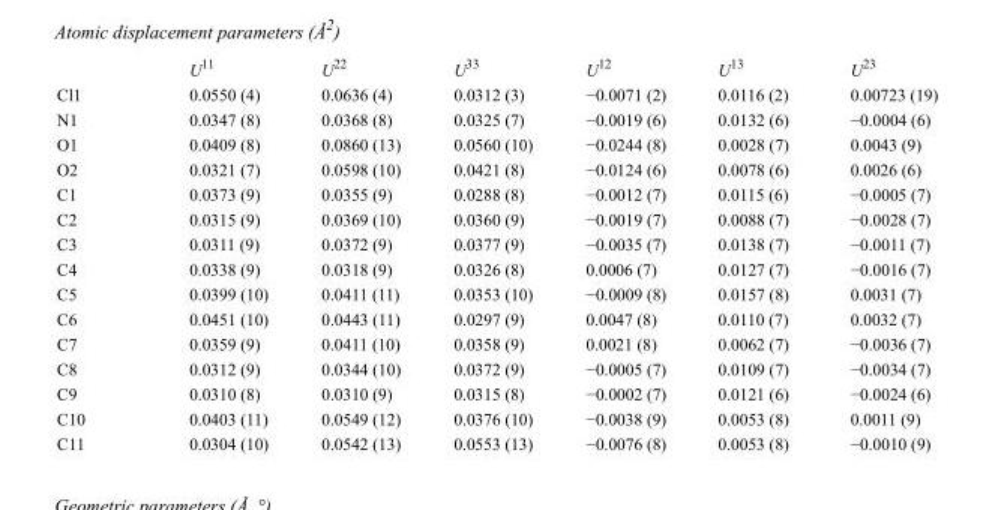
<table><thead><tr><td></td><td>U<sup>11</sup></td><td>U<sup>22</sup></td><td>U<sup>33</sup></td><td>U<sup>12</sup></td><td>U<sup>13</sup></td><td>U<sup>23</sup></td></tr></thead><tbody><tr><td>Cl1</td><td>0.0550 (4)</td><td>0.0636 (4)</td><td>0.0312 (3)</td><td>−0.0071 (2)</td><td>0.0116 (2)</td><td>0.00723 (19)</td></tr><tr><td>N1</td><td>0.0347 (8)</td><td>0.0368 (8)</td><td>0.0325 (7)</td><td>−0.0019 (6)</td><td>0.0132 (6)</td><td>−0.0004 (6)</td></tr><tr><td>O1</td><td>0.0409 (8)</td><td>0.0860 (13)</td><td>0.0560 (10)</td><td>−0.0244 (8)</td><td>0.0028 (7)</td><td>0.0043 (9)</td></tr><tr><td>O2</td><td>0.0321 (7)</td><td>0.0598 (10)</td><td>0.0421 (8)</td><td>−0.0124 (6)</td><td>0.0078 (6)</td><td>0.0026 (6)</td></tr><tr><td>C1</td><td>0.0373 (9)</td><td>0.0355 (9)</td><td>0.0288 (8)</td><td>−0.0012 (7)</td><td>0.0115 (6)</td><td>−0.0005 (7)</td></tr><tr><td>C2</td><td>0.0315 (9)</td><td>0.0369 (10)</td><td>0.0360 (9)</td><td>−0.0019 (7)</td><td>0.0088 (7)</td><td>−0.0028 (7)</td></tr><tr><td>C3</td><td>0.0311 (9)</td><td>0.0372 (9)</td><td>0.0377 (9)</td><td>−0.0035 (7)</td><td>0.0138 (7)</td><td>−0.0011 (7)</td></tr><tr><td>C4</td><td>0.0338 (9)</td><td>0.0318 (9)</td><td>0.0326 (8)</td><td>0.0006 (7)</td><td>0.0127 (7)</td><td>−0.0016 (7)</td></tr><tr><td>C5</td><td>0.0399 (10)</td><td>0.0411 (11)</td><td>0.0353 (10)</td><td>−0.0009 (8)</td><td>0.0157 (8)</td><td>0.0031 (7)</td></tr><tr><td>C6</td><td>0.0451 (10)</td><td>0.0443 (11)</td><td>0.0297 (9)</td><td>0.0047 (8)</td><td>0.0110 (7)</td><td>0.0032 (7)</td></tr><tr><td>C7</td><td>0.0359 (9)</td><td>0.0411 (10)</td><td>0.0358 (9)</td><td>0.0021 (8)</td><td>0.0062 (7)</td><td>−0.0036 (7)</td></tr><tr><td>C8</td><td>0.0312 (9)</td><td>0.0344 (10)</td><td>0.0372 (9)</td><td>−0.0005 (7)</td><td>0.0109 (7)</td><td>−0.0034 (7)</td></tr><tr><td>C9</td><td>0.0310 (8)</td><td>0.0310 (9)</td><td>0.0315 (8)</td><td>−0.0002 (7)</td><td>0.0121 (6)</td><td>−0.0024 (6)</td></tr><tr><td>C10</td><td>0.0403 (11)</td><td>0.0549 (12)</td><td>0.0376 (10)</td><td>−0.0038 (9)</td><td>0.0053 (8)</td><td>0.0011 (9)</td></tr><tr><td>C11</td><td>0.0304 (10)</td><td>0.0542 (13)</td><td>0.0553 (13)</td><td>−0.0076 (8)</td><td>0.0053 (8)</td><td>−0.0010 (9)</td></tr></tbody></table>